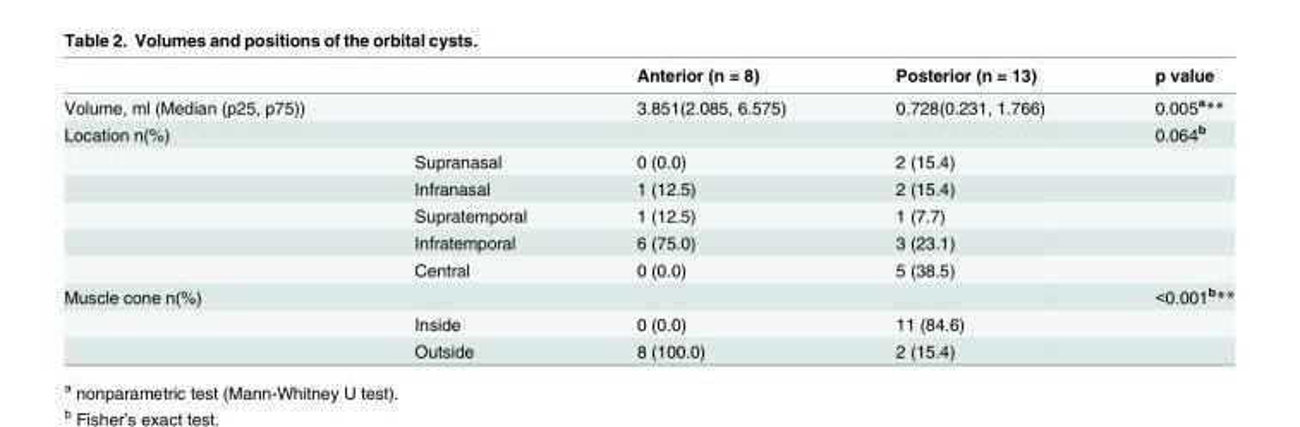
<table><thead><tr><td></td><td></td><td>Anterior (n = 8)</td><td>Posterior (n = 13)</td><td>p value</td></tr></thead><tbody><tr><td>Volume, ml (Median (p25, p75))</td><td></td><td>3.851(2.085, 6.575)</td><td>0.728(0.231, 1.766)</td><td>0.005<sup>a</sup>**</td></tr><tr><td rowspan="6">Location n(%)</td><td></td><td></td><td></td><td>0.064<sup>b</sup></td></tr><tr><td>Supranasal</td><td>0 (0.0)</td><td>2 (15.4)</td><td></td></tr><tr><td>Infranasal</td><td>1 (12.5)</td><td>2 (15.4)</td><td></td></tr><tr><td>Supratemporal</td><td>1 (12.5)</td><td>1 (7.7)</td><td></td></tr><tr><td>Infratemporal</td><td>6 (75.0)</td><td>3 (23.1)</td><td></td></tr><tr><td>Central</td><td>0 (0.0)</td><td>5 (38.5)</td><td></td></tr><tr><td rowspan="3">Muscle cone n(%)</td><td></td><td></td><td></td><td>&lt;0.001<sup>b</sup>**</td></tr><tr><td>Inside</td><td>0 (0.0)</td><td>11 (84.6)</td><td></td></tr><tr><td>Outside</td><td>8 (100.0)</td><td>2 (15.4)</td><td></td></tr></tbody></table>